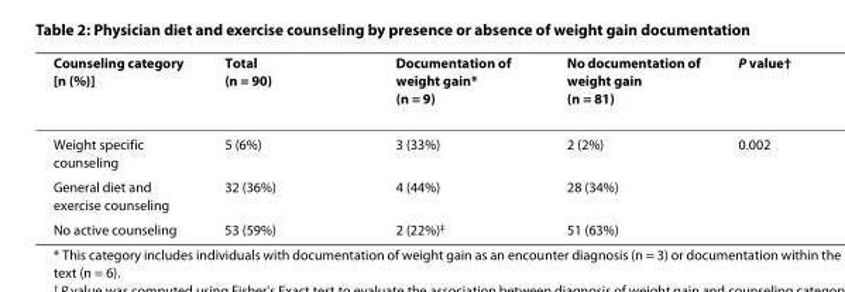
<table><thead><tr><td>Counseling category [n (%)]</td><td>Total (n = 90)</td><td>Documentation of weight gain* (n = 9)</td><td>No documentation of weight gain (n = 81)</td><td>P value<sup>†</sup></td></tr></thead><tbody><tr><td>Weight specific counseling</td><td>5 (6%)</td><td>3 (33%)</td><td>2 (2%)</td><td>0.002</td></tr><tr><td>General diet and exercise counseling</td><td>32 (36%)</td><td>4 (44%)</td><td>28 (34%)</td><td></td></tr><tr><td>No active counseling</td><td>53 (59%)</td><td>2 (22%)<sup>‡</sup></td><td>51 (63%)</td><td></td></tr></tbody></table>